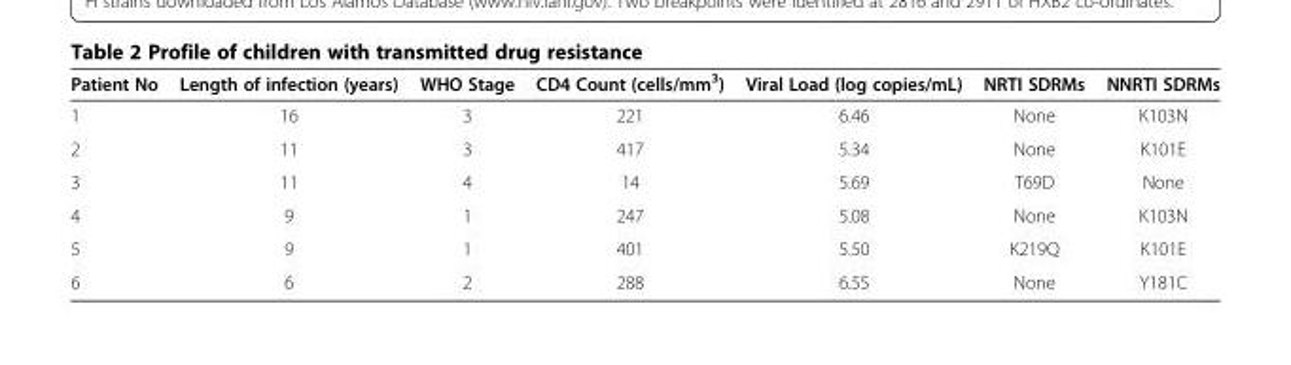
<table><thead><tr><td>Patient No</td><td>Length of infection (years)</td><td>WHO Stage</td><td>CD4 Count (cells/mm<sup>3</sup>)</td><td>Viral Load (log copies/mL)</td><td>NRTI SDRMs</td><td>NNRTI SDRMs</td></tr></thead><tbody><tr><td>1</td><td>16</td><td>3</td><td>221</td><td>6.46</td><td>None</td><td>K103N</td></tr><tr><td>2</td><td>11</td><td>3</td><td>417</td><td>5.34</td><td>None</td><td>K101E</td></tr><tr><td>3</td><td>11</td><td>4</td><td>14</td><td>5.69</td><td>T69D</td><td>None</td></tr><tr><td>4</td><td>9</td><td>1</td><td>247</td><td>5.08</td><td>None</td><td>K103N</td></tr><tr><td>5</td><td>9</td><td>1</td><td>401</td><td>5.50</td><td>K219Q</td><td>K101E</td></tr><tr><td>6</td><td>6</td><td>2</td><td>288</td><td>6.55</td><td>None</td><td>Y181C</td></tr></tbody></table>